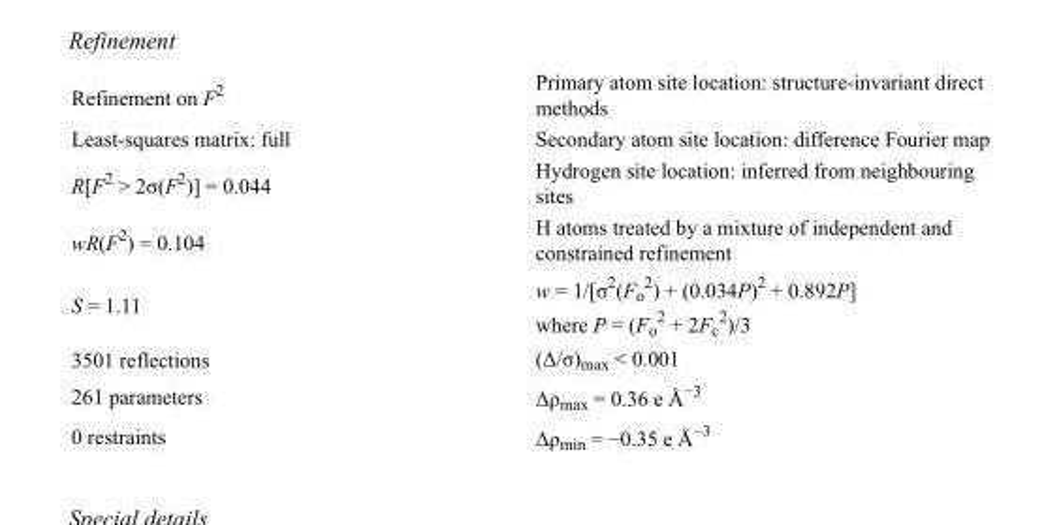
<table><tbody><tr><td>Refinement on F<sup>2</sup></td><td>Primary atom site location: structure-invariant direct methods</td></tr><tr><td>Least-squares matrix: full</td><td>Secondary atom site location: difference Fourier map</td></tr><tr><td>R[F<sup>2</sup> &gt; 2σ(F<sup>2</sup>)] = 0.044</td><td>Hydrogen site location: inferred from neighbouring sites</td></tr><tr><td>wR(F<sup>2</sup>) = 0.104</td><td>H atoms treated by a mixture of independent and constrained refinement</td></tr><tr><td>S = 1.11</td><td>w = 1/[σ<sup>2</sup>(F<sub>o</sub> <sup>2</sup>) + (0.034P)<sup>2</sup> + 0.892P] where P = (F<sub>o</sub> <sup>2</sup> + 2F<sub>c</sub> <sup>2</sup>)/3</td></tr><tr><td>3501 reflections</td><td>(Δ/σ)<sub>max</sub> &lt; 0.001</td></tr><tr><td>261 parameters</td><td>Δρ<sub>max</sub> = 0.36 e Å<sup>−3</sup></td></tr><tr><td>0 restraints</td><td>Δρ<sub>min</sub> = −0.35 e Å<sup>−3</sup></td></tr></tbody></table>